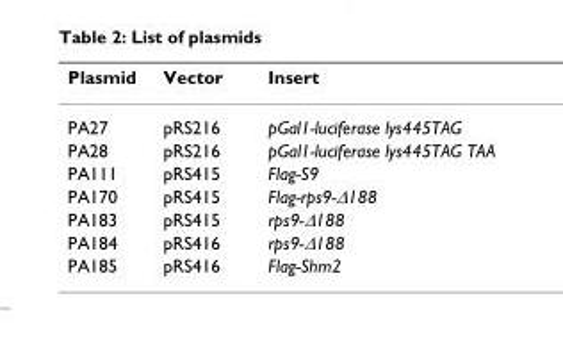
<table><thead><tr><td>Plasmid</td><td>Vector</td><td>Insert</td></tr></thead><tbody><tr><td>PA27</td><td>pRS216</td><td>pGal1-luciferase lys445TAG</td></tr><tr><td>PA28</td><td>pRS216</td><td>pGal1-luciferase lys445TAG TAA</td></tr><tr><td>PA111</td><td>pRS415</td><td>Flag-S9</td></tr><tr><td>PA170</td><td>pRS415</td><td>Flag-rps9-Δ188</td></tr><tr><td>PA183</td><td>pRS415</td><td>rps9-Δ188</td></tr><tr><td>PA184</td><td>pRS416</td><td>rps9-Δ188</td></tr><tr><td>PA185</td><td>pRS416</td><td>Flag-Shm2</td></tr></tbody></table>